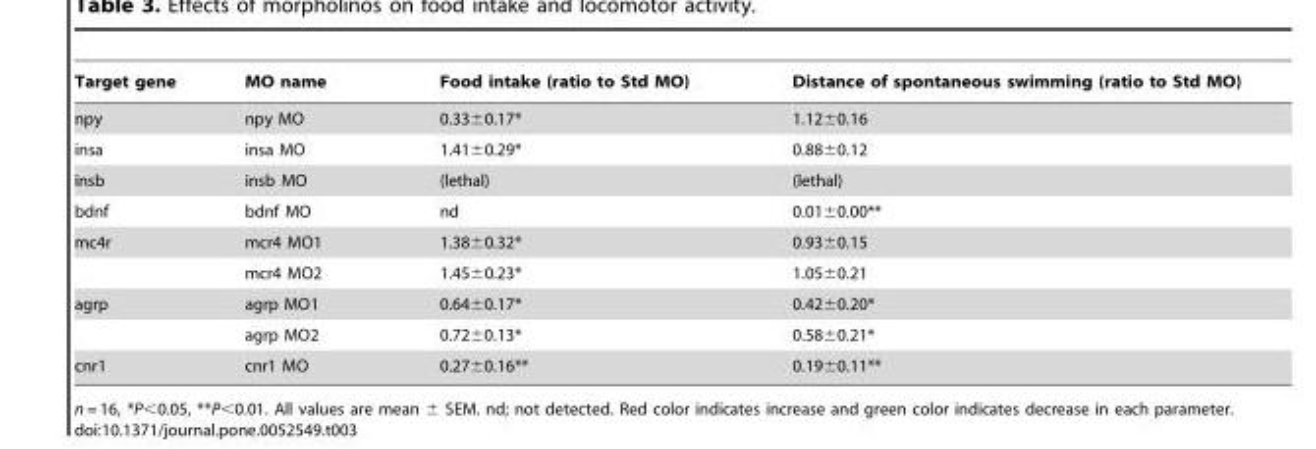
<table><thead><tr><td>Target gene</td><td>MO name</td><td>Food intake (ratio to Std MO)</td><td>Distance of spontaneous swimming (ratio to Std MO)</td></tr></thead><tbody><tr><td>npy</td><td>npy MO</td><td>0.33±0.17*</td><td>1.12±0.16</td></tr><tr><td>insa</td><td>insa MO</td><td>1.41±0.29*</td><td>0.88±0.12</td></tr><tr><td>insb</td><td>insb MO</td><td>(lethal)</td><td>(lethal)</td></tr><tr><td>bdnf</td><td>bdnf MO</td><td>nd</td><td>0.01±0.00**</td></tr><tr><td rowspan="2">mc4r</td><td>mcr4 MO1</td><td>1.38±0.32*</td><td>0.93±0.15</td></tr><tr><td>mcr4 MO2</td><td>1.45±0.23*</td><td>1.05±0.21</td></tr><tr><td rowspan="2">agrp</td><td>agrp MO1</td><td>0.64±0.17*</td><td>0.42±0.20*</td></tr><tr><td>agrp MO2</td><td>0.72±0.13*</td><td>0.58±0.21*</td></tr><tr><td>cnr1</td><td>cnr1 MO</td><td>0.27±0.16**</td><td>0.19±0.11**</td></tr></tbody></table>